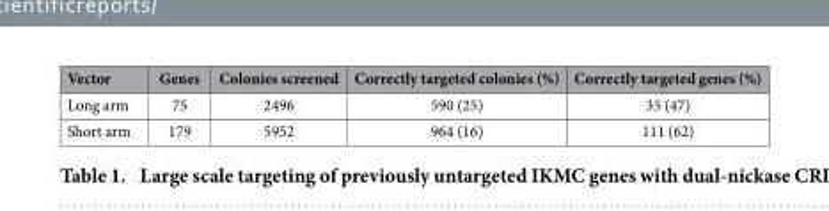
<table><thead><tr><td>Vector</td><td>Genes</td><td>Colonies screened</td><td>Correctly targeted colonies (%)</td><td>Correctly targeted genes (%)</td></tr></thead><tbody><tr><td>Long arm</td><td>75</td><td>2496</td><td>590 (25)</td><td>35 (47)</td></tr><tr><td>Short arm</td><td>179</td><td>5952</td><td>964 (16)</td><td>111 (62)</td></tr></tbody></table>